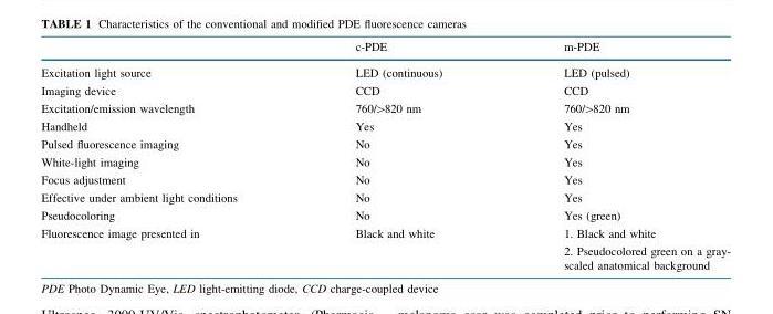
<table><thead><tr><td></td><td>c-PDE</td><td>m-PDE</td></tr></thead><tbody><tr><td>Excitation light source</td><td>LED (continuous)</td><td>LED (pulsed)</td></tr><tr><td>Imaging device</td><td>CCD</td><td>CCD</td></tr><tr><td>Excitation/emission wavelength</td><td>760/&gt;820 nm</td><td>760/&gt;820 nm</td></tr><tr><td>Handheld</td><td>Yes</td><td>Yes</td></tr><tr><td>Pulsed fluorescence imaging</td><td>No</td><td>Yes</td></tr><tr><td>White-light imaging</td><td>No</td><td>Yes</td></tr><tr><td>Focus adjustment</td><td>No</td><td>Yes</td></tr><tr><td>Effective under ambient light conditions</td><td>No</td><td>Yes</td></tr><tr><td>Pseudocoloring</td><td>No</td><td>Yes (green)</td></tr><tr><td>Fluorescence image presented in</td><td>Black and white</td><td>1. Black and white 2. Pseudocolored green on a gray- scaled anatomical background</td></tr></tbody></table>